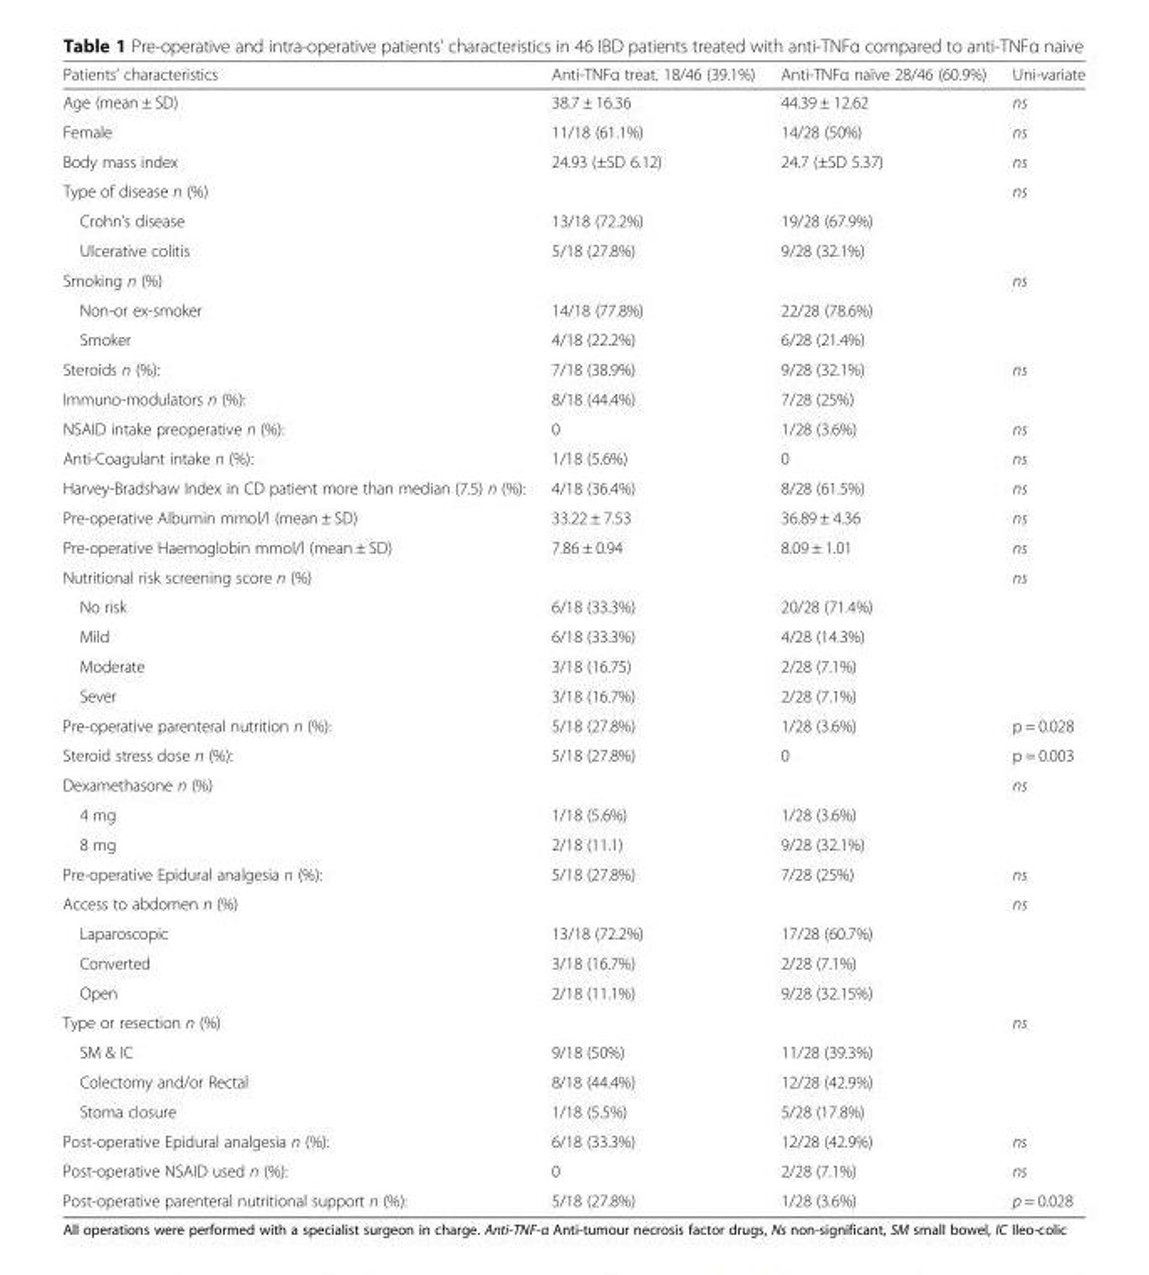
<table><thead><tr><td>Patients’ characteristics</td><td>Anti-TNFα treat. 18/46 (39.1%)</td><td>Anti-TNFα naïve 28/46 (60.9%)</td><td>Uni-variate</td></tr></thead><tbody><tr><td>Age (mean ± SD)</td><td>38.7 ± 16.36</td><td>44.39 ± 12.62</td><td>ns</td></tr><tr><td>Female</td><td>11/18 (61.1%)</td><td>14/28 (50%)</td><td>ns</td></tr><tr><td>Body mass index</td><td>24.93 (±SD 6.12)</td><td>24.7 (±SD 5.37)</td><td>ns</td></tr><tr><td colspan="3">Type of disease n (%)</td><td rowspan="3">ns</td></tr><tr><td>Crohn’s disease</td><td>13/18 (72.2%)</td><td>19/28 (67.9%)</td></tr><tr><td>Ulcerative colitis</td><td>5/18 (27.8%)</td><td>9/28 (32.1%)</td></tr><tr><td colspan="3">Smoking n (%)</td><td rowspan="3">ns</td></tr><tr><td>Non-or ex-smoker</td><td>14/18 (77.8%)</td><td>22/28 (78.6%)</td></tr><tr><td>Smoker</td><td>4/18 (22.2%)</td><td>6/28 (21.4%)</td></tr><tr><td>Steroids n (%):</td><td>7/18 (38.9%)</td><td>9/28 (32.1%)</td><td rowspan="2">ns</td></tr><tr><td>Immuno-modulators n (%):</td><td>8/18 (44.4%)</td><td>7/28 (25%)</td></tr><tr><td>NSAID intake preoperative n (%):</td><td>0</td><td>1/28 (3.6%)</td><td>ns</td></tr><tr><td>Anti-Coagulant intake n (%):</td><td>1/18 (5.6%)</td><td>0</td><td>ns</td></tr><tr><td>Harvey-Bradshaw Index in CD patient more than median (7.5) n (%):</td><td>4/18 (36.4%)</td><td>8/28 (61.5%)</td><td>ns</td></tr><tr><td>Pre-operative Albumin mmol/l (mean ± SD)</td><td>33.22 ± 7.53</td><td>36.89 ± 4.36</td><td>ns</td></tr><tr><td>Pre-operative Haemoglobin mmol/l (mean ± SD)</td><td>7.86 ± 0.94</td><td>8.09 ± 1.01</td><td>ns</td></tr><tr><td colspan="3">Nutritional risk screening score n (%)</td><td rowspan="5">ns</td></tr><tr><td>No risk</td><td>6/18 (33.3%)</td><td>20/28 (71.4%)</td></tr><tr><td>Mild</td><td>6/18 (33.3%)</td><td>4/28 (14.3%)</td></tr><tr><td>Moderate</td><td>3/18 (16.75)</td><td>2/28 (7.1%)</td></tr><tr><td>Sever</td><td>3/18 (16.7%)</td><td>2/28 (7.1%)</td></tr><tr><td>Pre-operative parenteral nutrition n (%):</td><td>5/18 (27.8%)</td><td>1/28 (3.6%)</td><td>p = 0.028</td></tr><tr><td>Steroid stress dose n (%):</td><td>5/18 (27.8%)</td><td>0</td><td>p = 0.003</td></tr><tr><td colspan="3">Dexamethasone n (%)</td><td rowspan="3">ns</td></tr><tr><td>4 mg</td><td>1/18 (5.6%)</td><td>1/28 (3.6%)</td></tr><tr><td>8 mg</td><td>2/18 (11.1)</td><td>9/28 (32.1%)</td></tr><tr><td>Pre-operative Epidural analgesia n (%):</td><td>5/18 (27.8%)</td><td>7/28 (25%)</td><td>ns</td></tr><tr><td colspan="3">Access to abdomen n (%)</td><td rowspan="4">ns</td></tr><tr><td>Laparoscopic</td><td>13/18 (72.2%)</td><td>17/28 (60.7%)</td></tr><tr><td>Converted</td><td>3/18 (16.7%)</td><td>2/28 (7.1%)</td></tr><tr><td>Open</td><td>2/18 (11.1%)</td><td>9/28 (32.15%)</td></tr><tr><td colspan="3">Type or resection n (%)</td><td rowspan="4">ns</td></tr><tr><td>SM &amp; IC</td><td>9/18 (50%)</td><td>11/28 (39.3%)</td></tr><tr><td>Colectomy and/or Rectal</td><td>8/18 (44.4%)</td><td>12/28 (42.9%)</td></tr><tr><td>Stoma closure</td><td>1/18 (5.5%)</td><td>5/28 (17.8%)</td></tr><tr><td>Post-operative Epidural analgesia n (%):</td><td>6/18 (33.3%)</td><td>12/28 (42.9%)</td><td>ns</td></tr><tr><td>Post-operative NSAID used n (%):</td><td>0</td><td>2/28 (7.1%)</td><td>ns</td></tr><tr><td>Post-operative parenteral nutritional support n (%):</td><td>5/18 (27.8%)</td><td>1/28 (3.6%)</td><td>p = 0.028</td></tr></tbody></table>